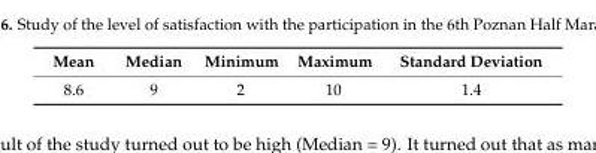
<table><thead><tr><td>Mean</td><td>Median</td><td>Minimum</td><td>Maximum</td><td>Standard Deviation</td></tr></thead><tbody><tr><td>8.6</td><td>9</td><td>2</td><td>10</td><td>1.4</td></tr></tbody></table>